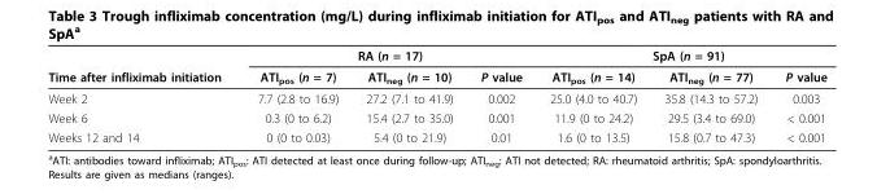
<table><thead><tr><td rowspan="2">Time after infliximab initiation</td><td colspan="3">RA (n = 17)</td><td colspan="3">SpA (n = 91)</td></tr><tr><td>ATI<sub>pos</sub> (n = 7)</td><td>ATI<sub>neg</sub> (n = 10)</td><td>P value</td><td>ATI<sub>pos</sub> (n = 14)</td><td>ATI<sub>neg</sub> (n = 77)</td><td>P value</td></tr></thead><tbody><tr><td>Week 2</td><td>7.7 (2.8 to 16.9)</td><td>27.2 (7.1 to 41.9)</td><td>0.002</td><td>25.0 (4.0 to 40.7)</td><td>35.8 (14.3 to 57.2)</td><td>0.003</td></tr><tr><td>Week 6</td><td>0.3 (0 to 6.2)</td><td>15.4 (2.7 to 35.0)</td><td>0.001</td><td>11.9 (0 to 24.2)</td><td>29.5 (3.4 to 69.0)</td><td>&lt; 0.001</td></tr><tr><td>Weeks 12 and 14</td><td>0 (0 to 0.03)</td><td>5.4 (0 to 21.9)</td><td>0.01</td><td>1.6 (0 to 13.5)</td><td>15.8 (0.7 to 47.3)</td><td>&lt; 0.001</td></tr></tbody></table>